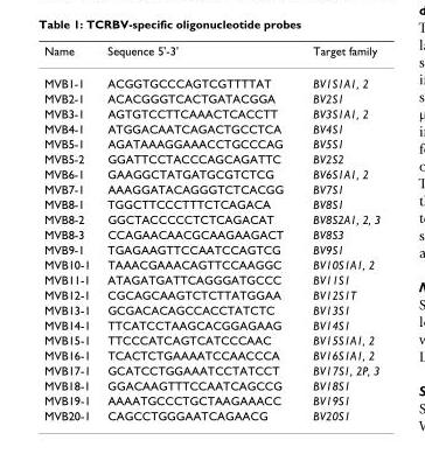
<table><thead><tr><td>Name</td><td>Sequence 5&#x27;-3&#x27;</td><td>Target family</td></tr></thead><tbody><tr><td>MVB1-1</td><td>ACGGTGCCCAGTCGTTTTAT</td><td>BV1S1A1, 2</td></tr><tr><td>MVB2-1</td><td>ACACGGGTCACTGATACGGA</td><td>BV2S1</td></tr><tr><td>MVB3-1</td><td>AGTGTCCTTCAAACTCACCTT</td><td>BV3S1A1, 2</td></tr><tr><td>MVB4-1</td><td>ATGGACAATCAGACTGCCTCA</td><td>BV4S1</td></tr><tr><td>MVB5-1</td><td>AGATAAAGGAAACCTGCCCAG</td><td>BV5S1</td></tr><tr><td>MVB5-2</td><td>GGATTCCTACCCAGCAGATTC</td><td>BV2S2</td></tr><tr><td>MVB6-1</td><td>GAAGGCTATGATGCGTCTCG</td><td>BV6S1A1, 2</td></tr><tr><td>MVB7-1</td><td>AAAGGATACAGGGTCTCACGG</td><td>BV7S1</td></tr><tr><td>MVB8-1</td><td>TGGCTTCCCTTTCTCAGACA</td><td>BV8S1</td></tr><tr><td>MVB8-2</td><td>GGCTACCCCCTCTCAGACAT</td><td>BV8S2A1, 2, 3</td></tr><tr><td>MVB8-3</td><td>CCAGAACAACGCAAGAAGACT</td><td>BV8S3</td></tr><tr><td>MVB9-1</td><td>TGAGAAGTTCCAATCCAGTCG</td><td>BV9S1</td></tr><tr><td>MVB10-1</td><td>TAAACGAAACAGTTCCAAGGC</td><td>BV10S1A1, 2</td></tr><tr><td>MVB11-1</td><td>ATAGATGATTCAGGGATGCCC</td><td>BV11S1</td></tr><tr><td>MVB12-1</td><td>CGCAGCAAGTCTCTTATGGAA</td><td>BV12S1T</td></tr><tr><td>MVB13-1</td><td>GCGACACAGCCACCTATCTC</td><td>BV13S1</td></tr><tr><td>MVB14-1</td><td>TTCATCCTAAGCACGGAGAAG</td><td>BV14S1</td></tr><tr><td>MVB15-1</td><td>TTCCCATCAGTCATCCCAAC</td><td>BV15S1A1, 2</td></tr><tr><td>MVB16-1</td><td>TCACTCTGAAAATCCAACCCA</td><td>BV16S1A1, 2</td></tr><tr><td>MVB17-1</td><td>GCATCCTGGAAATCCTATCCT</td><td>BV17S1, 2P, 3</td></tr><tr><td>MVB18-1</td><td>GGACAAGTTTCCAATCAGCCG</td><td>BV18S1</td></tr><tr><td>MVB19-1</td><td>AAAATGCCCTGCTAAGAAACC</td><td>BV19S1</td></tr><tr><td>MVB20-1</td><td>CAGCCTGGGAATCAGAACG</td><td>BV20S1</td></tr></tbody></table>